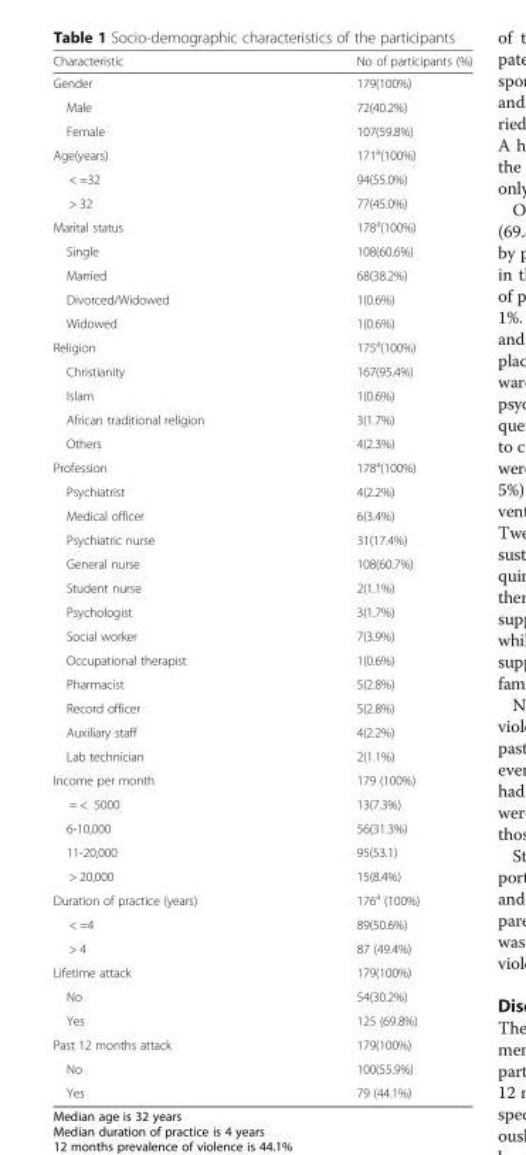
<table><thead><tr><td>Characteristic</td><td>No of participants (%)</td></tr></thead><tbody><tr><td>Gender</td><td>179(100%)</td></tr><tr><td>Male</td><td>72(40.2%)</td></tr><tr><td>Female</td><td>107(59.8%)</td></tr><tr><td>Age(years)</td><td>171<sup>a</sup>(100%)</td></tr><tr><td>&lt; =32</td><td>94(55.0%)</td></tr><tr><td>&gt; 32</td><td>77(45.0%)</td></tr><tr><td>Marital status</td><td>178<sup>a</sup>(100%)</td></tr><tr><td>Single</td><td>108(60.6%)</td></tr><tr><td>Married</td><td>68(38.2%)</td></tr><tr><td>Divorced/Widowed</td><td>1(0.6%)</td></tr><tr><td>Widowed</td><td>1(0.6%)</td></tr><tr><td>Religion</td><td>175<sup>a</sup>(100%)</td></tr><tr><td>Christianity</td><td>167(95.4%)</td></tr><tr><td>Islam</td><td>1(0.6%)</td></tr><tr><td>African traditional religion</td><td>3(1.7%)</td></tr><tr><td>Others</td><td>4(2.3%)</td></tr><tr><td>Profession</td><td>178<sup>a</sup>(100%)</td></tr><tr><td>Psychiatrist</td><td>4(2.2%)</td></tr><tr><td>Medical officer</td><td>6(3.4%)</td></tr><tr><td>Psychiatric nurse</td><td>31(17.4%)</td></tr><tr><td>General nurse</td><td>108(60.7%)</td></tr><tr><td>Student nurse</td><td>2(1.1%)</td></tr><tr><td>Psychologist</td><td>3(1.7%)</td></tr><tr><td>Social worker</td><td>7(3.9%)</td></tr><tr><td>Occupational therapist</td><td>1(0.6%)</td></tr><tr><td>Pharmacist</td><td>5(2.8%)</td></tr><tr><td>Record officer</td><td>5(2.8%)</td></tr><tr><td>Auxiliary staff</td><td>4(2.2%)</td></tr><tr><td>Lab technician</td><td>2(1.1%)</td></tr><tr><td>Income per month</td><td>179 (100%)</td></tr><tr><td>= &lt; 5000</td><td>13(7.3%)</td></tr><tr><td>6-10,000</td><td>56(31.3%)</td></tr><tr><td>11-20,000</td><td>95(53.1)</td></tr><tr><td>&gt; 20,000</td><td>15(8.4%)</td></tr><tr><td>Duration of practice (years)</td><td>176<sup>a</sup> (100%)</td></tr><tr><td>&lt; =4</td><td>89(50.6%)</td></tr><tr><td>&gt; 4</td><td>87 (49.4%)</td></tr><tr><td>Lifetime attack</td><td>179(100%)</td></tr><tr><td>No</td><td>54(30.2%)</td></tr><tr><td>Yes</td><td>125 (69.8%)</td></tr><tr><td>Past 12 months attack</td><td>179(100%)</td></tr><tr><td>No</td><td>100(55.9%)</td></tr><tr><td>Yes</td><td>79 (44.1%)</td></tr></tbody></table>